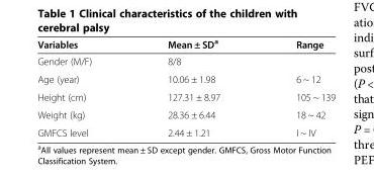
<table><thead><tr><td>Variables</td><td>Mean ± SD<sup>a</sup></td><td>Range</td></tr></thead><tbody><tr><td>Gender (M/F)</td><td>8/8</td><td></td></tr><tr><td>Age (year)</td><td>10.06 ± 1.98</td><td>6 ~ 12</td></tr><tr><td>Height (cm)</td><td>127.31 ± 8.97</td><td>105 ~ 139</td></tr><tr><td>Weight (kg)</td><td>28.36 ± 6.44</td><td>18 ~ 42</td></tr><tr><td>GMFCS level</td><td>2.44 ± 1.21</td><td>I ~ IV</td></tr></tbody></table>